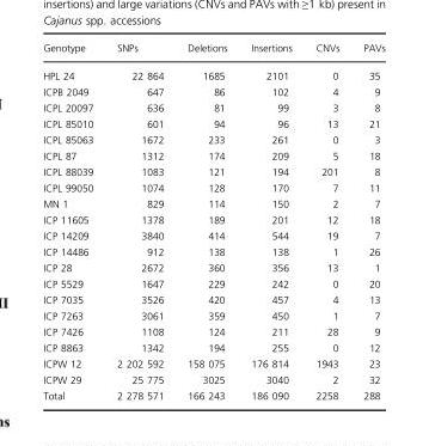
<table><thead><tr><td>Genotype</td><td>SNPs</td><td>Deletions</td><td>Insertions</td><td>CNVs</td><td>PAVs</td></tr></thead><tbody><tr><td>HPL 24</td><td>22 864</td><td>1685</td><td>2101</td><td>0</td><td>35</td></tr><tr><td>ICPB 2049</td><td>647</td><td>86</td><td>102</td><td>4</td><td>9</td></tr><tr><td>ICPL 20097</td><td>636</td><td>81</td><td>99</td><td>3</td><td>8</td></tr><tr><td>ICPL 85010</td><td>601</td><td>94</td><td>96</td><td>13</td><td>21</td></tr><tr><td>ICPL 85063</td><td>1672</td><td>233</td><td>261</td><td>0</td><td>3</td></tr><tr><td>ICPL 87</td><td>1312</td><td>174</td><td>209</td><td>5</td><td>18</td></tr><tr><td>ICPL 88039</td><td>1083</td><td>121</td><td>194</td><td>201</td><td>8</td></tr><tr><td>ICPL 99050</td><td>1074</td><td>128</td><td>170</td><td>7</td><td>11</td></tr><tr><td>MN 1</td><td>829</td><td>114</td><td>150</td><td>2</td><td>7</td></tr><tr><td>ICP 11605</td><td>1378</td><td>189</td><td>201</td><td>12</td><td>18</td></tr><tr><td>ICP 14209</td><td>3840</td><td>414</td><td>544</td><td>19</td><td>7</td></tr><tr><td>ICP 14486</td><td>912</td><td>138</td><td>138</td><td>1</td><td>26</td></tr><tr><td>ICP 28</td><td>2672</td><td>360</td><td>356</td><td>13</td><td>1</td></tr><tr><td>ICP 5529</td><td>1647</td><td>229</td><td>242</td><td>0</td><td>20</td></tr><tr><td>ICP 7035</td><td>3526</td><td>420</td><td>457</td><td>4</td><td>13</td></tr><tr><td>ICP 7263</td><td>3061</td><td>359</td><td>450</td><td>1</td><td>7</td></tr><tr><td>ICP 7426</td><td>1108</td><td>124</td><td>211</td><td>28</td><td>9</td></tr><tr><td>ICP 8863</td><td>1342</td><td>194</td><td>255</td><td>0</td><td>12</td></tr><tr><td>ICPW 12</td><td>2 202 592</td><td>158 075</td><td>176 814</td><td>1943</td><td>23</td></tr><tr><td>ICPW 29</td><td>25 775</td><td>3025</td><td>3040</td><td>2</td><td>32</td></tr><tr><td>Total</td><td>2 278 571</td><td>166 243</td><td>186 090</td><td>2258</td><td>288</td></tr></tbody></table>